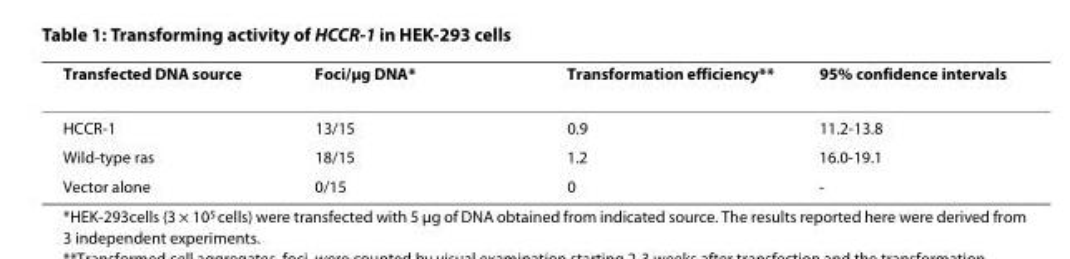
<table><thead><tr><td>Transfected DNA source</td><td>Foci/μg DNA*</td><td>Transformation efficiency**</td><td>95% confidence intervals</td></tr></thead><tbody><tr><td>HCCR-1</td><td>13/15</td><td>0.9</td><td>11.2-13.8</td></tr><tr><td>Wild-type ras</td><td>18/15</td><td>1.2</td><td>16.0-19.1</td></tr><tr><td>Vector alone</td><td>0/15</td><td>0</td><td>-</td></tr></tbody></table>